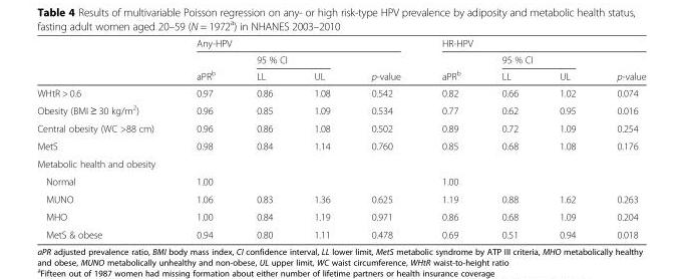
<table><thead><tr><td rowspan="3"></td><td colspan="4">Any-HPV</td><td colspan="4">HR-HPV</td></tr><tr><td rowspan="2">aPR<sup>b</sup></td><td colspan="2">95 % CI</td><td rowspan="2">p-value</td><td rowspan="2">aPR<sup>b</sup></td><td colspan="2">95 % CI</td><td rowspan="2">p-value</td></tr><tr><td>LL</td><td>UL</td><td>LL</td><td>UL</td></tr></thead><tbody><tr><td>WHtR &gt; 0.6</td><td>0.97</td><td>0.86</td><td>1.08</td><td>0.542</td><td>0.82</td><td>0.66</td><td>1.02</td><td>0.074</td></tr><tr><td>Obesity (BMI ≥ 30 kg/m<sup>2</sup>)</td><td>0.96</td><td>0.85</td><td>1.09</td><td>0.534</td><td>0.77</td><td>0.62</td><td>0.95</td><td>0.016</td></tr><tr><td>Central obesity (WC &gt;88 cm)</td><td>0.96</td><td>0.86</td><td>1.08</td><td>0.502</td><td>0.89</td><td>0.72</td><td>1.09</td><td>0.254</td></tr><tr><td>MetS</td><td>0.98</td><td>0.84</td><td>1.14</td><td>0.760</td><td>0.85</td><td>0.68</td><td>1.08</td><td>0.176</td></tr><tr><td colspan="9">Metabolic health and obesity</td></tr><tr><td>Normal</td><td>1.00</td><td></td><td></td><td></td><td>1.00</td><td></td><td></td><td></td></tr><tr><td>MUNO</td><td>1.06</td><td>0.83</td><td>1.36</td><td>0.625</td><td>1.19</td><td>0.88</td><td>1.62</td><td>0.263</td></tr><tr><td>MHO</td><td>1.00</td><td>0.84</td><td>1.19</td><td>0.971</td><td>0.86</td><td>0.68</td><td>1.09</td><td>0.204</td></tr><tr><td>MetS &amp; obese</td><td>0.94</td><td>0.80</td><td>1.11</td><td>0.478</td><td>0.69</td><td>0.51</td><td>0.94</td><td>0.018</td></tr></tbody></table>